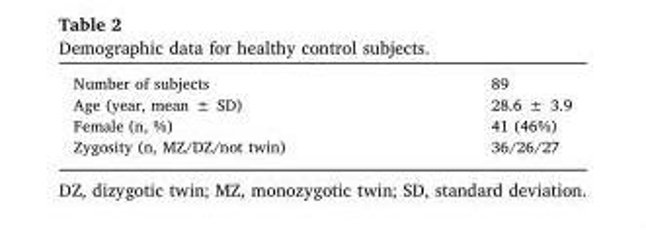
<table><tbody><tr><td>Number of subjects</td><td>89</td></tr><tr><td>Age (year, mean ± SD)</td><td>28.6 ± 3.9</td></tr><tr><td>Female (n, %)</td><td>41 (46%)</td></tr><tr><td>Zygosity (n, MZ/DZ/not twin)</td><td>36/26/27</td></tr></tbody></table>